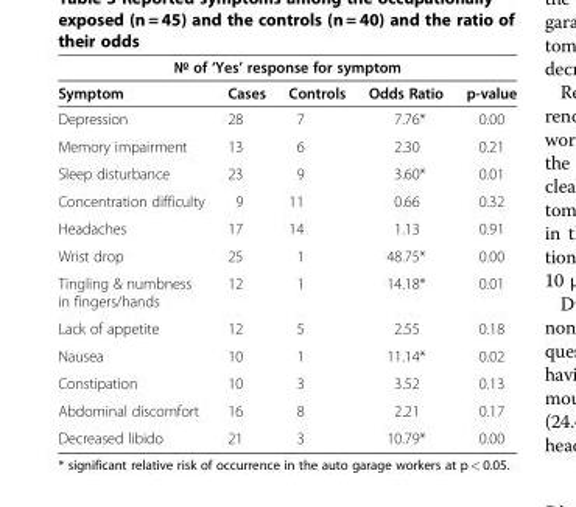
<table><thead><tr><td colspan="5">№ of ‘Yes’ response for symptom</td></tr><tr><td>Symptom</td><td>Cases</td><td>Controls</td><td>Odds Ratio</td><td>p-value</td></tr></thead><tbody><tr><td>Depression</td><td>28</td><td>7</td><td>7.76*</td><td>0.00</td></tr><tr><td>Memory impairment</td><td>13</td><td>6</td><td>2.30</td><td>0.21</td></tr><tr><td>Sleep disturbance</td><td>23</td><td>9</td><td>3.60*</td><td>0.01</td></tr><tr><td>Concentration difficulty</td><td>9</td><td>11</td><td>0.66</td><td>0.32</td></tr><tr><td>Headaches</td><td>17</td><td>14</td><td>1.13</td><td>0.91</td></tr><tr><td>Wrist drop</td><td>25</td><td>1</td><td>48.75*</td><td>0.00</td></tr><tr><td>Tingling &amp; numbness in fingers/hands</td><td>12</td><td>1</td><td>14.18*</td><td>0.01</td></tr><tr><td>Lack of appetite</td><td>12</td><td>5</td><td>2.55</td><td>0.18</td></tr><tr><td>Nausea</td><td>10</td><td>1</td><td>11.14*</td><td>0.02</td></tr><tr><td>Constipation</td><td>10</td><td>3</td><td>3.52</td><td>0.13</td></tr><tr><td>Abdominal discomfort</td><td>16</td><td>8</td><td>2.21</td><td>0.17</td></tr><tr><td>Decreased libido</td><td>21</td><td>3</td><td>10.79*</td><td>0.00</td></tr></tbody></table>